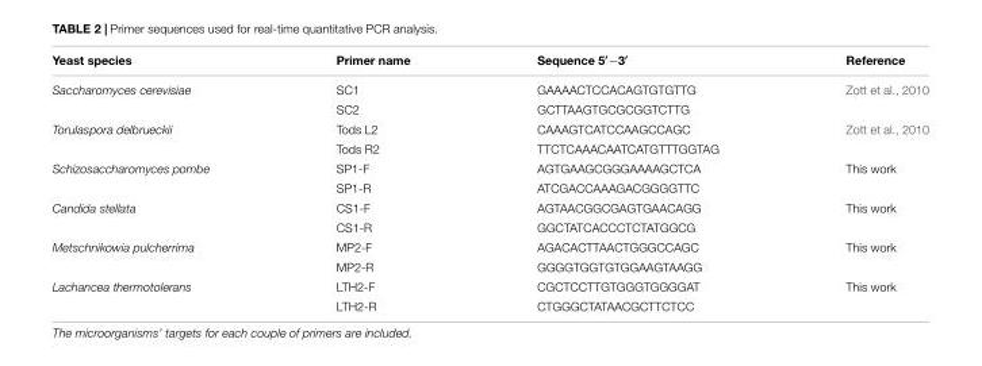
<table><thead><tr><td>Yeast species</td><td>Primer name</td><td>Sequence 5′−3′</td><td>Reference</td></tr></thead><tbody><tr><td rowspan="2">Saccharomyces cerevisiae</td><td>SC1</td><td>GAAAACTCCACAGTGTGTTG</td><td>Zott et al., 2010</td></tr><tr><td>SC2</td><td>GCTTAAGTGCGCGGTCTTG</td><td></td></tr><tr><td rowspan="2">Torulaspora delbrueckii</td><td>Tods L2</td><td>CAAAGTCATCCAAGCCAGC</td><td>Zott et al., 2010</td></tr><tr><td>Tods R2</td><td>TTCTCAAACAATCATGTTTGGTAG</td><td></td></tr><tr><td rowspan="2">Schizosaccharomyces pombe</td><td>SP1-F</td><td>AGTGAAGCGGGAAAAGCTCA</td><td>This work</td></tr><tr><td>SP1-R</td><td>ATCGACCAAAGACGGGGTTC</td><td></td></tr><tr><td rowspan="2">Candida stellata</td><td>CS1-F</td><td>AGTAACGGCGAGTGAACAGG</td><td>This work</td></tr><tr><td>CS1-R</td><td>GGCTATCACCCTCTATGGCG</td><td></td></tr><tr><td rowspan="2">Metschnikowia pulcherrima</td><td>MP2-F</td><td>AGACACTTAACTGGGCCAGC</td><td>This work</td></tr><tr><td>MP2-R</td><td>GGGGTGGTGTGGAAGTAAGG</td><td></td></tr><tr><td rowspan="2">Lachancea thermotolerans</td><td>LTH2-F</td><td>CGCTCCTTGTGGGTGGGGAT</td><td>This work</td></tr><tr><td>LTH2-R</td><td>CTGGGCTATAACGCTTCTCC</td><td></td></tr></tbody></table>